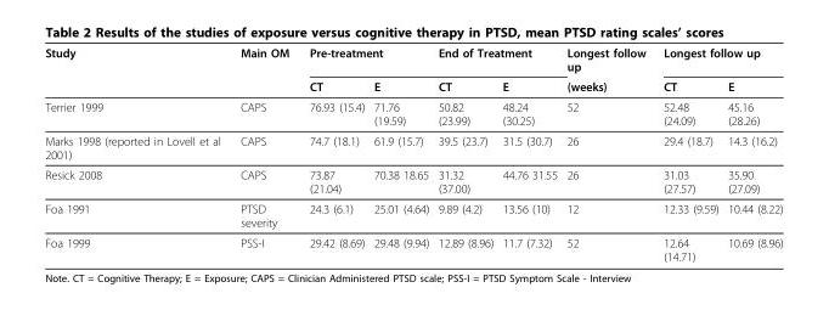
<table><thead><tr><td rowspan="2">Study</td><td rowspan="2">Main OM</td><td colspan="2">Pre-treatment</td><td colspan="2">End of Treatment</td><td rowspan="2">Longest follow up (weeks)</td><td colspan="2">Longest follow up</td></tr><tr><td>CT</td><td>E</td><td>CT</td><td>E</td><td>CT</td><td>E</td></tr></thead><tbody><tr><td>Terrier 1999</td><td>CAPS</td><td>76.93 (15.4)</td><td>71.76 (19.59)</td><td>50.82 (23.99)</td><td>48.24 (30.25)</td><td>52</td><td>52.48 (24.09)</td><td>45.16 (28.26)</td></tr><tr><td>Marks 1998 (reported in Lovell et al 2001)</td><td>CAPS</td><td>74.7 (18.1)</td><td>61.9 (15.7)</td><td>39.5 (23.7)</td><td>31.5 (30.7)</td><td>26</td><td>29.4 (18.7)</td><td>14.3 (16.2)</td></tr><tr><td>Resick 2008</td><td>CAPS</td><td>73.87 (21.04)</td><td>70.38 18.65</td><td>31.32 (37.00)</td><td>44.76 31.55</td><td>26</td><td>31.03 (27.57)</td><td>35.90 (27.09)</td></tr><tr><td>Foa 1991</td><td>PTSD severity</td><td>24.3 (6.1)</td><td>25.01 (4.64)</td><td>9.89 (4.2)</td><td>13.56 (10)</td><td>12</td><td>12.33 (9.59)</td><td>10.44 (8.22)</td></tr><tr><td>Foa 1999</td><td>PSS-I</td><td>29.42 (8.69)</td><td>29.48 (9.94)</td><td>12.89 (8.96)</td><td>11.7 (7.32)</td><td>52</td><td>12.64 (14.71)</td><td>10.69 (8.96)</td></tr></tbody></table>